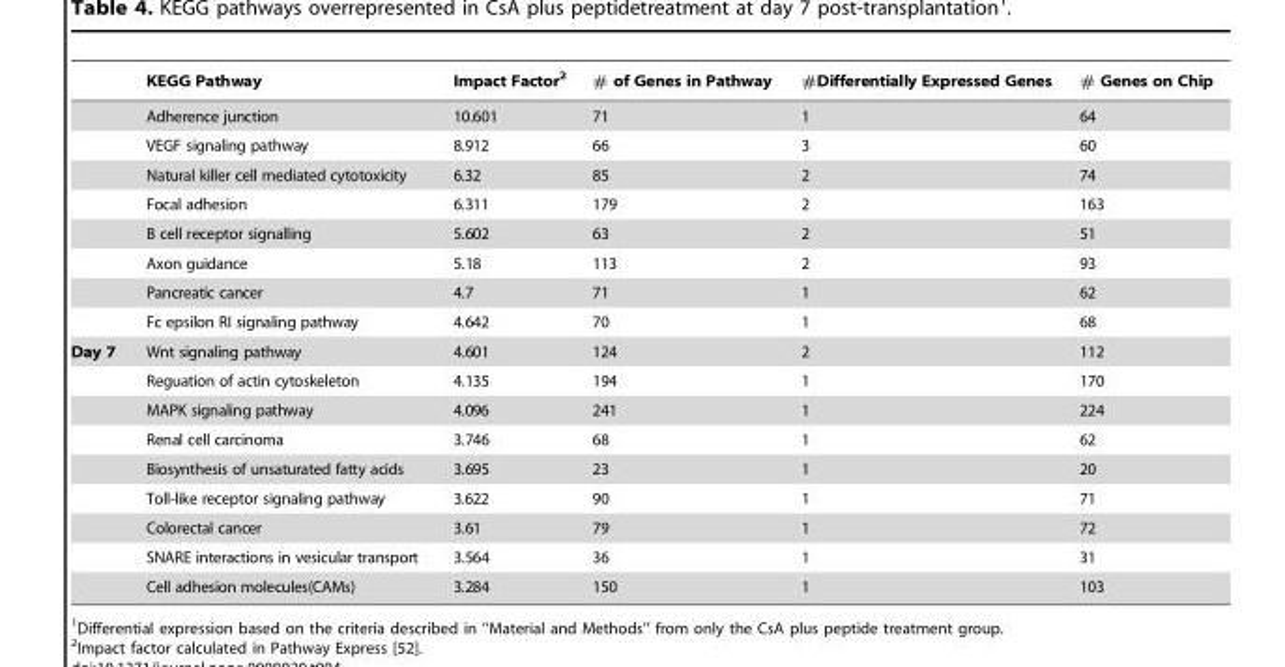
<table><thead><tr><td></td><td>KEGG Pathway</td><td>Impact Factor<sup>2</sup></td><td># of Genes in Pathway</td><td>#Differentially Expressed Genes</td><td># Genes on Chip</td></tr></thead><tbody><tr><td></td><td>Adherence junction</td><td>10.601</td><td>71</td><td>1</td><td>64</td></tr><tr><td></td><td>VEGF signaling pathway</td><td>8.912</td><td>66</td><td>3</td><td>60</td></tr><tr><td></td><td>Natural killer cell mediated cytotoxicity</td><td>6.32</td><td>85</td><td>2</td><td>74</td></tr><tr><td></td><td>Focal adhesion</td><td>6.311</td><td>179</td><td>2</td><td>163</td></tr><tr><td></td><td>B cell receptor signalling</td><td>5.602</td><td>63</td><td>2</td><td>51</td></tr><tr><td></td><td>Axon guidance</td><td>5.18</td><td>113</td><td>2</td><td>93</td></tr><tr><td></td><td>Pancreatic cancer</td><td>4.7</td><td>71</td><td>1</td><td>62</td></tr><tr><td></td><td>Fc epsilon RI signaling pathway</td><td>4.642</td><td>70</td><td>1</td><td>68</td></tr><tr><td rowspan="9">Day 7</td><td>Wnt signaling pathway</td><td>4.601</td><td>124</td><td>2</td><td>112</td></tr><tr><td>Reguation of actin cytoskeleton</td><td>4.135</td><td>194</td><td>1</td><td>170</td></tr><tr><td>MAPK signaling pathway</td><td>4.096</td><td>241</td><td>1</td><td>224</td></tr><tr><td>Renal cell carcinoma</td><td>3.746</td><td>68</td><td>1</td><td>62</td></tr><tr><td>Biosynthesis of unsaturated fatty acids</td><td>3.695</td><td>23</td><td>1</td><td>20</td></tr><tr><td>Toll-like receptor signaling pathway</td><td>3.622</td><td>90</td><td>1</td><td>71</td></tr><tr><td>Colorectal cancer</td><td>3.61</td><td>79</td><td>1</td><td>72</td></tr><tr><td>SNARE interactions in vesicular transport</td><td>3.564</td><td>36</td><td>1</td><td>31</td></tr><tr><td>Cell adhesion molecules(CAMs)</td><td>3.284</td><td>150</td><td>1</td><td>103</td></tr></tbody></table>